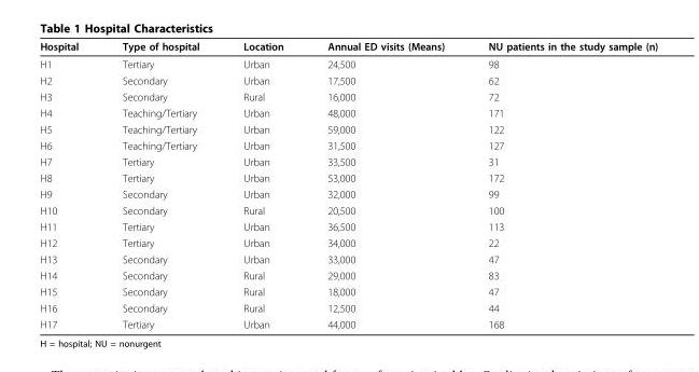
<table><thead><tr><td>Hospital</td><td>Type of hospital</td><td>Location</td><td>Annual ED visits (Means)</td><td>NU patients in the study sample (n)</td></tr></thead><tbody><tr><td>H1</td><td>Tertiary</td><td>Urban</td><td>24,500</td><td>98</td></tr><tr><td>H2</td><td>Secondary</td><td>Urban</td><td>17,500</td><td>62</td></tr><tr><td>H3</td><td>Secondary</td><td>Rural</td><td>16,000</td><td>72</td></tr><tr><td>H4</td><td>Teaching/Tertiary</td><td>Urban</td><td>48,000</td><td>171</td></tr><tr><td>H5</td><td>Teaching/Tertiary</td><td>Urban</td><td>59,000</td><td>122</td></tr><tr><td>H6</td><td>Teaching/Tertiary</td><td>Urban</td><td>31,500</td><td>127</td></tr><tr><td>H7</td><td>Tertiary</td><td>Urban</td><td>33,500</td><td>31</td></tr><tr><td>H8</td><td>Tertiary</td><td>Urban</td><td>53,000</td><td>172</td></tr><tr><td>H9</td><td>Secondary</td><td>Urban</td><td>32,000</td><td>99</td></tr><tr><td>H10</td><td>Secondary</td><td>Rural</td><td>20,500</td><td>100</td></tr><tr><td>H11</td><td>Tertiary</td><td>Urban</td><td>36,500</td><td>113</td></tr><tr><td>H12</td><td>Tertiary</td><td>Urban</td><td>34,000</td><td>22</td></tr><tr><td>H13</td><td>Secondary</td><td>Urban</td><td>33,000</td><td>47</td></tr><tr><td>H14</td><td>Secondary</td><td>Rural</td><td>29,000</td><td>83</td></tr><tr><td>H15</td><td>Secondary</td><td>Rural</td><td>18,000</td><td>47</td></tr><tr><td>H16</td><td>Secondary</td><td>Rural</td><td>12,500</td><td>44</td></tr><tr><td>H17</td><td>Tertiary</td><td>Urban</td><td>44,000</td><td>168</td></tr></tbody></table>